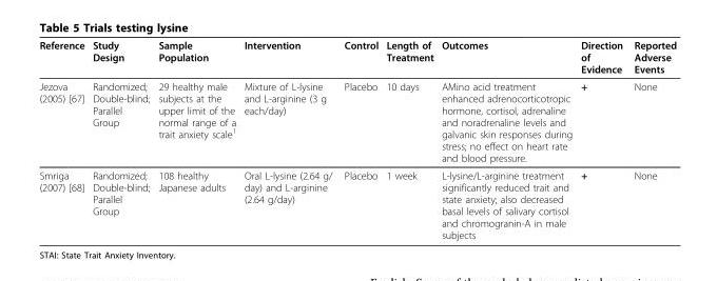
<table><thead><tr><td>Reference</td><td>Study Design</td><td>Sample Population</td><td>Intervention</td><td>Control</td><td>Length of Treatment</td><td>Outcomes</td><td>Direction of Evidence</td><td>Reported Adverse Events</td></tr></thead><tbody><tr><td>Jezova (2005) [67]</td><td>Randomized; Double-blind; Parallel Group</td><td>29 healthy male subjects at the upper limit of the normal range of a trait anxiety scale<sup>1</sup></td><td>Mixture of L-lysine and L-arginine (3 g each/day)</td><td>Placebo</td><td>10 days</td><td>AMino acid treatment enhanced adrenocorticotropic hormone, cortisol, adrenaline and noradrenaline levels and galvanic skin responses during stress; no effect on heart rate and blood pressure.</td><td>+</td><td>None</td></tr><tr><td>Smriga (2007) [68]</td><td>Randomized; Double-blind; Parallel Group</td><td>108 healthy Japanese adults</td><td>Oral L-lysine (2.64 g/ day) and L-arginine (2.64 g/day)</td><td>Placebo</td><td>1 week</td><td>L-lysine/L-arginine treatment significantly reduced trait and state anxiety; also decreased basal levels of salivary cortisol and chromogranin-A in male subjects</td><td>+</td><td>None</td></tr></tbody></table>